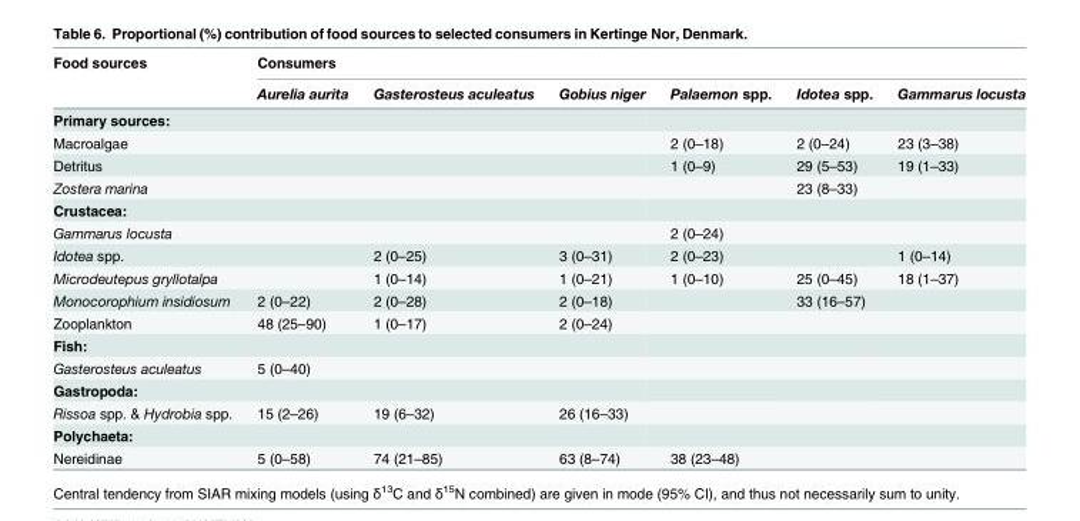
<table><thead><tr><td rowspan="2">Food sources</td><td colspan="6">Consumers</td></tr><tr><td>Aurelia aurita</td><td>Gasterosteus aculeatus</td><td>Gobius niger</td><td>Palaemon spp.</td><td>Idotea spp.</td><td>Gammarus locusta</td></tr></thead><tbody><tr><td colspan="7">Primary sources:</td></tr><tr><td>Macroalgae</td><td></td><td></td><td></td><td>2 (0–18)</td><td>2 (0–24)</td><td>23 (3–38)</td></tr><tr><td>Detritus</td><td></td><td></td><td></td><td>1 (0–9)</td><td>29 (5–53)</td><td>19 (1–33)</td></tr><tr><td>Zostera marina</td><td></td><td></td><td></td><td></td><td>23 (8–33)</td><td></td></tr><tr><td colspan="7">Crustacea:</td></tr><tr><td>Gammarus locusta</td><td></td><td></td><td></td><td>2 (0–24)</td><td></td><td></td></tr><tr><td>Idotea spp.</td><td></td><td>2 (0–25)</td><td>3 (0–31)</td><td>2 (0–23)</td><td></td><td>1 (0–14)</td></tr><tr><td>Microdeutepus gryllotalpa</td><td></td><td>1 (0–14)</td><td>1 (0–21)</td><td>1 (0–10)</td><td>25 (0–45)</td><td>18 (1–37)</td></tr><tr><td>Monocorophium insidiosum</td><td>2 (0–22)</td><td>2 (0–28)</td><td>2 (0–18)</td><td></td><td>33 (16–57)</td><td></td></tr><tr><td>Zooplankton</td><td>48 (25–90)</td><td>1 (0–17)</td><td>2 (0–24)</td><td></td><td></td><td></td></tr><tr><td colspan="7">Fish:</td></tr><tr><td>Gasterosteus aculeatus</td><td>5 (0–40)</td><td></td><td></td><td></td><td></td><td></td></tr><tr><td colspan="7">Gastropoda:</td></tr><tr><td>Rissoa spp. &amp; Hydrobia spp.</td><td>15 (2–26)</td><td>19 (6–32)</td><td>26 (16–33)</td><td></td><td></td><td></td></tr><tr><td colspan="7">Polychaeta:</td></tr><tr><td>Nereidinae</td><td>5 (0–58)</td><td>74 (21–85)</td><td>63 (8–74)</td><td>38 (23–48)</td><td></td><td></td></tr></tbody></table>